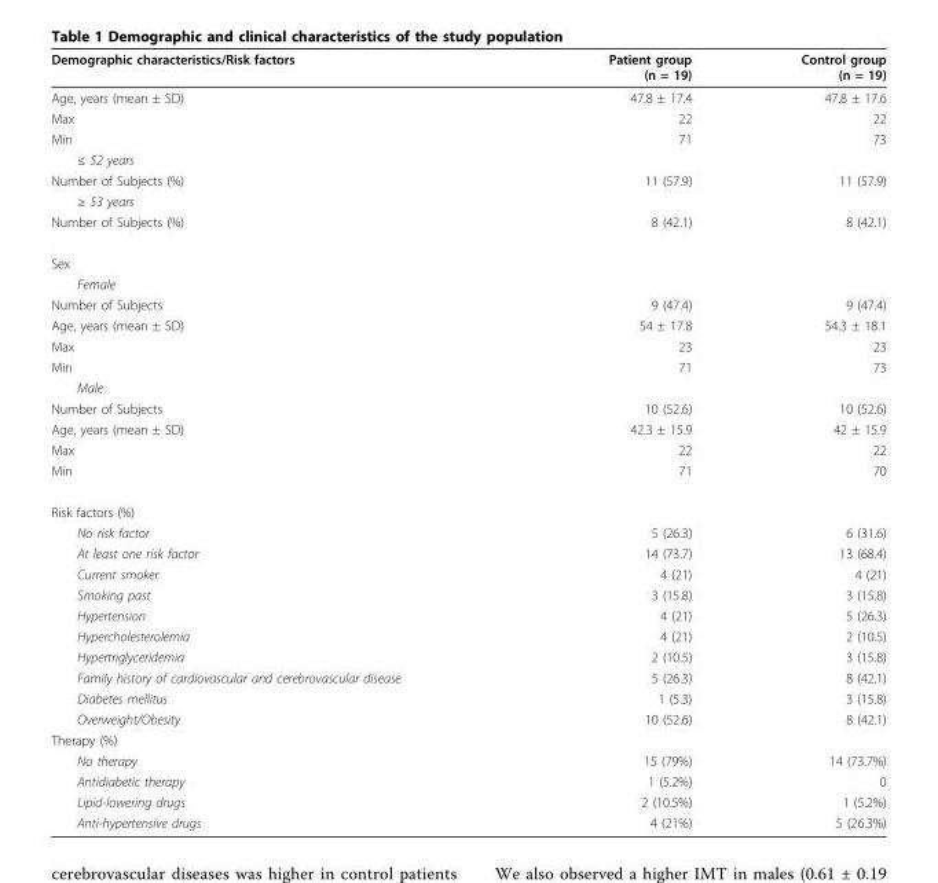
<table><thead><tr><td>Demographic characteristics/Risk factors</td><td>Patient group (n = 19)</td><td>Control group (n = 19)</td></tr></thead><tbody><tr><td>Age, years (mean ± SD)</td><td>47.8 ± 17.4</td><td>47.8 ± 17.6</td></tr><tr><td>Max</td><td>22</td><td>22</td></tr><tr><td>Min</td><td>71</td><td>73</td></tr><tr><td colspan="3">≤ 52 years</td></tr><tr><td>Number of Subjects (%)</td><td>11 (57.9)</td><td>11 (57.9)</td></tr><tr><td colspan="3">≥ 53 years</td></tr><tr><td>Number of Subjects (%)</td><td>8 (42.1)</td><td>8 (42.1)</td></tr><tr><td colspan="3">Sex</td></tr><tr><td colspan="3">Female</td></tr><tr><td>Number of Subjects</td><td>9 (47.4)</td><td>9 (47.4)</td></tr><tr><td>Age, years (mean ± SD)</td><td>54 ± 17.8</td><td>54.3 ± 18.1</td></tr><tr><td>Max</td><td>23</td><td>23</td></tr><tr><td>Min</td><td>71</td><td>73</td></tr><tr><td colspan="3">Male</td></tr><tr><td>Number of Subjects</td><td>10 (52.6)</td><td>10 (52.6)</td></tr><tr><td>Age, years (mean ± SD)</td><td>42.3 ± 15.9</td><td>42 ± 15.9</td></tr><tr><td>Max</td><td>22</td><td>22</td></tr><tr><td>Min</td><td>71</td><td>70</td></tr><tr><td colspan="3">Risk factors (%)</td></tr><tr><td>No risk factor</td><td>5 (26.3)</td><td>6 (31.6)</td></tr><tr><td>At least one risk factor</td><td>14 (73.7)</td><td>13 (68.4)</td></tr><tr><td>Current smoker</td><td>4 (21)</td><td>4 (21)</td></tr><tr><td>Smoking past</td><td>3 (15.8)</td><td>3 (15.8)</td></tr><tr><td>Hypertension</td><td>4 (21)</td><td>5 (26.3)</td></tr><tr><td>Hypercholesterolemia</td><td>4 (21)</td><td>2 (10.5)</td></tr><tr><td>Hypertriglyceridemia</td><td>2 (10.5)</td><td>3 (15.8)</td></tr><tr><td>Family history of cardiovascular and cerebrovascular disease</td><td>5 (26.3)</td><td>8 (42.1)</td></tr><tr><td>Diabetes mellitus</td><td>1 (5.3)</td><td>3 (15.8)</td></tr><tr><td>Overweight/Obesity</td><td>10 (52.6)</td><td>8 (42.1)</td></tr><tr><td colspan="3">Therapy (%)</td></tr><tr><td>No therapy</td><td>15 (79%)</td><td>14 (73.7%)</td></tr><tr><td>Antidiabetic therapy</td><td>1 (5.2%)</td><td>0</td></tr><tr><td>Lipid-lowering drugs</td><td>2 (10.5%)</td><td>1 (5.2%)</td></tr><tr><td>Anti-hypertensive drugs</td><td>4 (21%)</td><td>5 (26.3%)</td></tr></tbody></table>